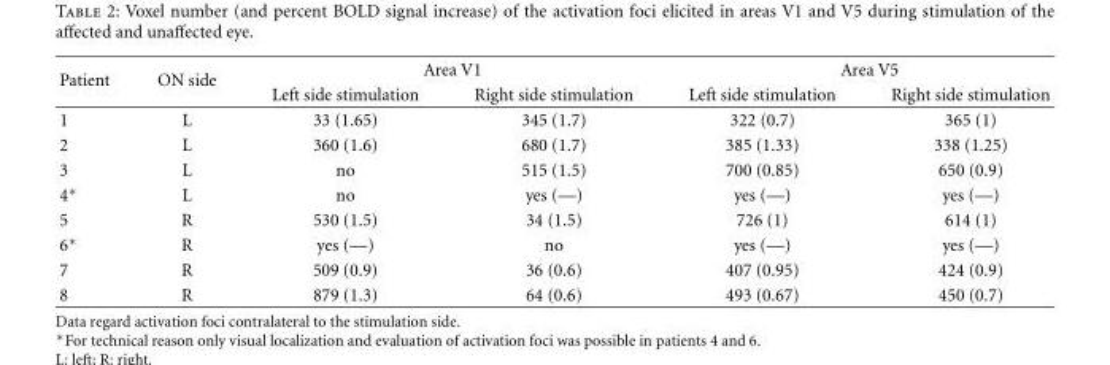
<table><thead><tr><td rowspan="2">Patient</td><td rowspan="2">ON side</td><td colspan="2">Area V1</td><td colspan="2">Area V5</td></tr><tr><td>Left side stimulation</td><td>Right side stimulation</td><td>Left side stimulation</td><td>Right side stimulation</td></tr></thead><tbody><tr><td>1</td><td>L</td><td>33 (1.65)</td><td>345 (1.7)</td><td>322 (0.7)</td><td>365 (1)</td></tr><tr><td>2</td><td>L</td><td>360 (1.6)</td><td>680 (1.7)</td><td>385 (1.33)</td><td>338 (1.25)</td></tr><tr><td>3</td><td>L</td><td>no</td><td>515 (1.5)</td><td>700 (0.85)</td><td>650 (0.9)</td></tr><tr><td>4∗</td><td>L</td><td>no</td><td>yes (—)</td><td>yes (—)</td><td>yes (—)</td></tr><tr><td>5</td><td>R</td><td>530 (1.5)</td><td>34 (1.5)</td><td>726 (1)</td><td>614 (1)</td></tr><tr><td>6∗</td><td>R</td><td>yes (—)</td><td>no</td><td>yes (—)</td><td>yes (—)</td></tr><tr><td>7</td><td>R</td><td>509 (0.9)</td><td>36 (0.6)</td><td>407 (0.95)</td><td>424 (0.9)</td></tr><tr><td>8</td><td>R</td><td>879 (1.3)</td><td>64 (0.6)</td><td>493 (0.67)</td><td>450 (0.7)</td></tr></tbody></table>